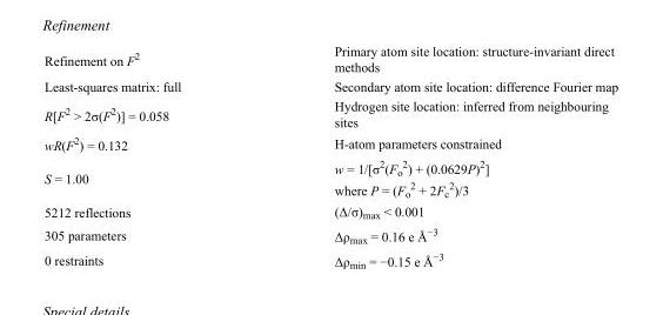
<table><tbody><tr><td>Refinement on F<sup>2</sup></td><td>Primary atom site location: structure-invariant direct methods</td></tr><tr><td>Least-squares matrix: full</td><td>Secondary atom site location: difference Fourier map</td></tr><tr><td>R[F<sup>2</sup> &gt; 2σ(F<sup>2</sup>)] = 0.058</td><td>Hydrogen site location: inferred from neighbouring sites</td></tr><tr><td>wR(F<sup>2</sup>) = 0.132</td><td>H-atom parameters constrained</td></tr><tr><td>S = 1.00</td><td>w = 1/[σ<sup>2</sup>(F<sub>o</sub> <sup>2</sup>) + (0.0629P)<sup>2</sup>] where P = (F<sub>o</sub> <sup>2</sup> + 2F<sub>c</sub> <sup>2</sup>)/3</td></tr><tr><td>5212 reflections</td><td>(Δ/σ)<sub>max</sub> &lt; 0.001</td></tr><tr><td>305 parameters</td><td>Δρ<sub>max</sub> = 0.16 e Å<sup>−3</sup></td></tr><tr><td>0 restraints</td><td>Δρ<sub>min</sub> = −0.15 e Å<sup>−3</sup></td></tr></tbody></table>